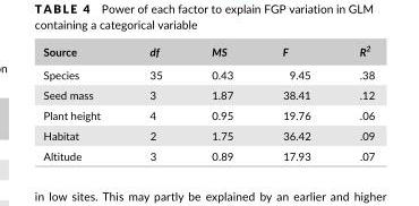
<table><thead><tr><td>Source</td><td>df</td><td>MS</td><td>F</td><td>R<sup>2</sup></td></tr></thead><tbody><tr><td>Species</td><td>35</td><td>0.43</td><td>9.45</td><td>.38</td></tr><tr><td>Seed mass</td><td>3</td><td>1.87</td><td>38.41</td><td>.12</td></tr><tr><td>Plant height</td><td>4</td><td>0.95</td><td>19.76</td><td>.06</td></tr><tr><td>Habitat</td><td>2</td><td>1.75</td><td>36.42</td><td>.09</td></tr><tr><td>Altitude</td><td>3</td><td>0.89</td><td>17.93</td><td>.07</td></tr></tbody></table>